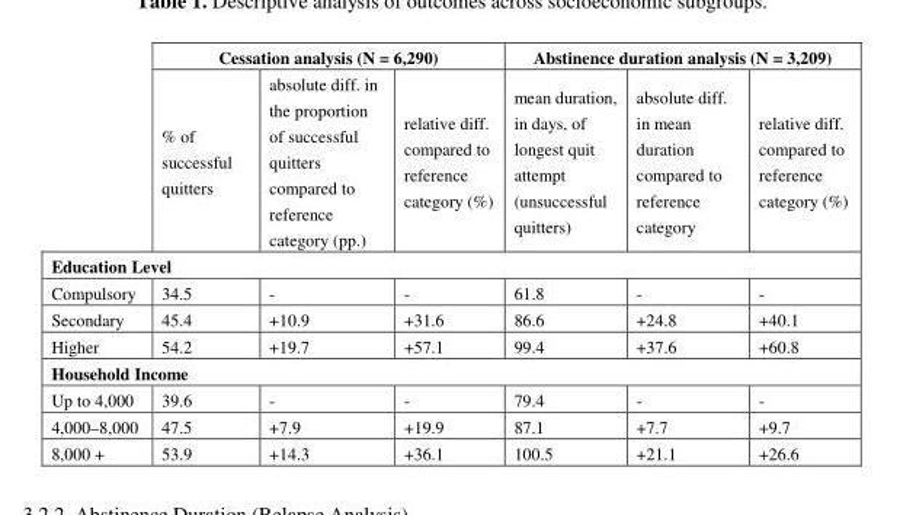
<table><thead><tr><td rowspan="2"></td><td colspan="3">Cessation analysis (N = 6,290)</td><td colspan="3">Abstinence duration analysis (N = 3,209)</td></tr><tr><td>% of successful quitters</td><td>absolute diff. in the proportion of successful quitters compared to reference category (pp.)</td><td>relative diff. compared to reference category (%)</td><td>mean duration, in days, of longest quit attempt (unsuccessful quitters)</td><td>absolute diff. in mean duration compared to reference category</td><td>relative diff. compared to reference category (%)</td></tr></thead><tbody><tr><td colspan="7">Education Level</td></tr><tr><td>Compulsory</td><td>34.5</td><td>-</td><td>-</td><td>61.8</td><td>-</td><td>-</td></tr><tr><td>Secondary</td><td>45.4</td><td>+10.9</td><td>+31.6</td><td>86.6</td><td>+24.8</td><td>+40.1</td></tr><tr><td>Higher</td><td>54.2</td><td>+19.7</td><td>+57.1</td><td>99.4</td><td>+37.6</td><td>+60.8</td></tr><tr><td colspan="7">Household Income</td></tr><tr><td>Up to 4,000</td><td>39.6</td><td>-</td><td>-</td><td>79.4</td><td>-</td><td>-</td></tr><tr><td>4,000–8,000</td><td>47.5</td><td>+7.9</td><td>+19.9</td><td>87.1</td><td>+7.7</td><td>+9.7</td></tr><tr><td>8,000 +</td><td>53.9</td><td>+14.3</td><td>+36.1</td><td>100.5</td><td>+21.1</td><td>+26.6</td></tr></tbody></table>